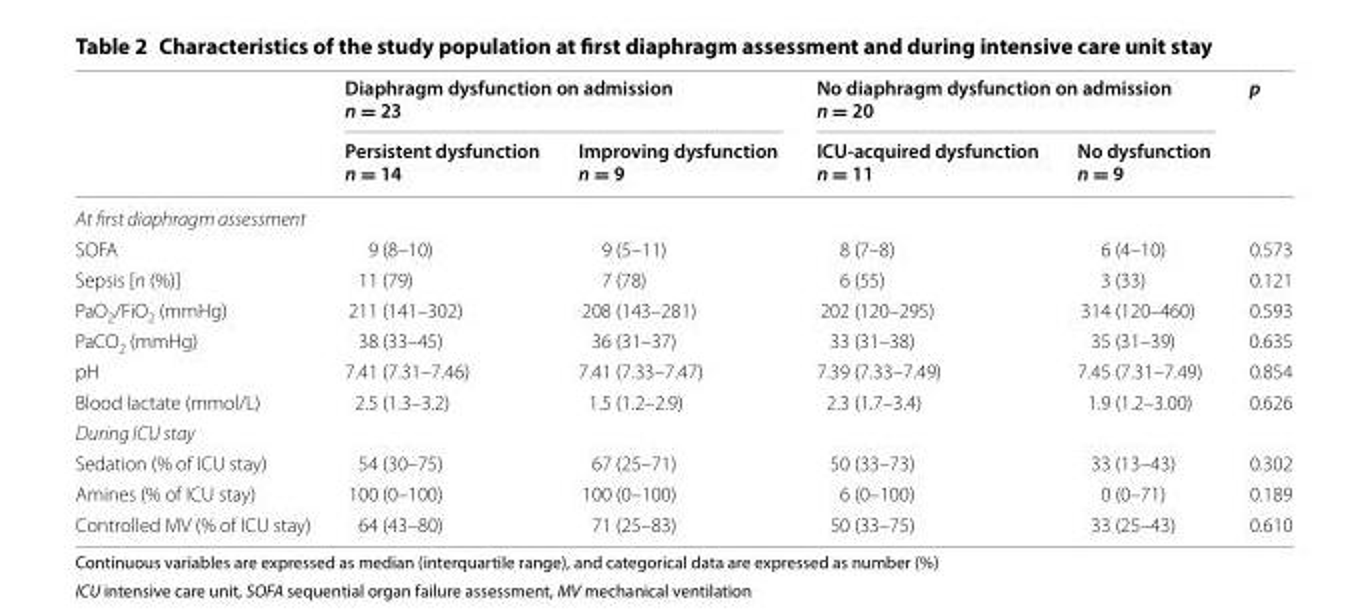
<table><thead><tr><td rowspan="2"></td><td colspan="2">Diaphragm dysfunction on admission n = 23</td><td colspan="2">No diaphragm dysfunction on admission n = 20</td><td rowspan="2">p</td></tr><tr><td>Persistent dysfunction n = 14</td><td>Improving dysfunction n = 9</td><td>ICU-acquired dysfunction n = 11</td><td>No dysfunction n = 9</td></tr></thead><tbody><tr><td colspan="6">At first diaphragm assessment</td></tr><tr><td>SOFA</td><td>9 (8–10)</td><td>9 (5–11)</td><td>8 (7–8)</td><td>6 (4–10)</td><td>0.573</td></tr><tr><td>Sepsis [n (%)]</td><td>11 (79)</td><td>7 (78)</td><td>6 (55)</td><td>3 (33)</td><td>0.121</td></tr><tr><td>PaO<sub>2</sub>/FiO<sub>2</sub> (mmHg)</td><td>211 (141–302)</td><td>208 (143–281)</td><td>202 (120–295)</td><td>314 (120–460)</td><td>0.593</td></tr><tr><td>PaCO<sub>2</sub> (mmHg)</td><td>38 (33–45)</td><td>36 (31–37)</td><td>33 (31–38)</td><td>35 (31–39)</td><td>0.635</td></tr><tr><td>pH</td><td>7.41 (7.31–7.46)</td><td>7.41 (7.33–7.47)</td><td>7.39 (7.33–7.49)</td><td>7.45 (7.31–7.49)</td><td>0.854</td></tr><tr><td>Blood lactate (mmol/L)</td><td>2.5 (1.3–3.2)</td><td>1.5 (1.2–2.9)</td><td>2.3 (1.7–3.4)</td><td>1.9 (1.2–3.00)</td><td>0.626</td></tr><tr><td colspan="6">During ICU stay</td></tr><tr><td>Sedation (% of ICU stay)</td><td>54 (30–75)</td><td>67 (25–71)</td><td>50 (33–73)</td><td>33 (13–43)</td><td>0.302</td></tr><tr><td>Amines (% of ICU stay)</td><td>100 (0–100)</td><td>100 (0–100)</td><td>6 (0–100)</td><td>0 (0–71)</td><td>0.189</td></tr><tr><td>Controlled MV (% of ICU stay)</td><td>64 (43–80)</td><td>71 (25–83)</td><td>50 (33–75)</td><td>33 (25–43)</td><td>0.610</td></tr></tbody></table>